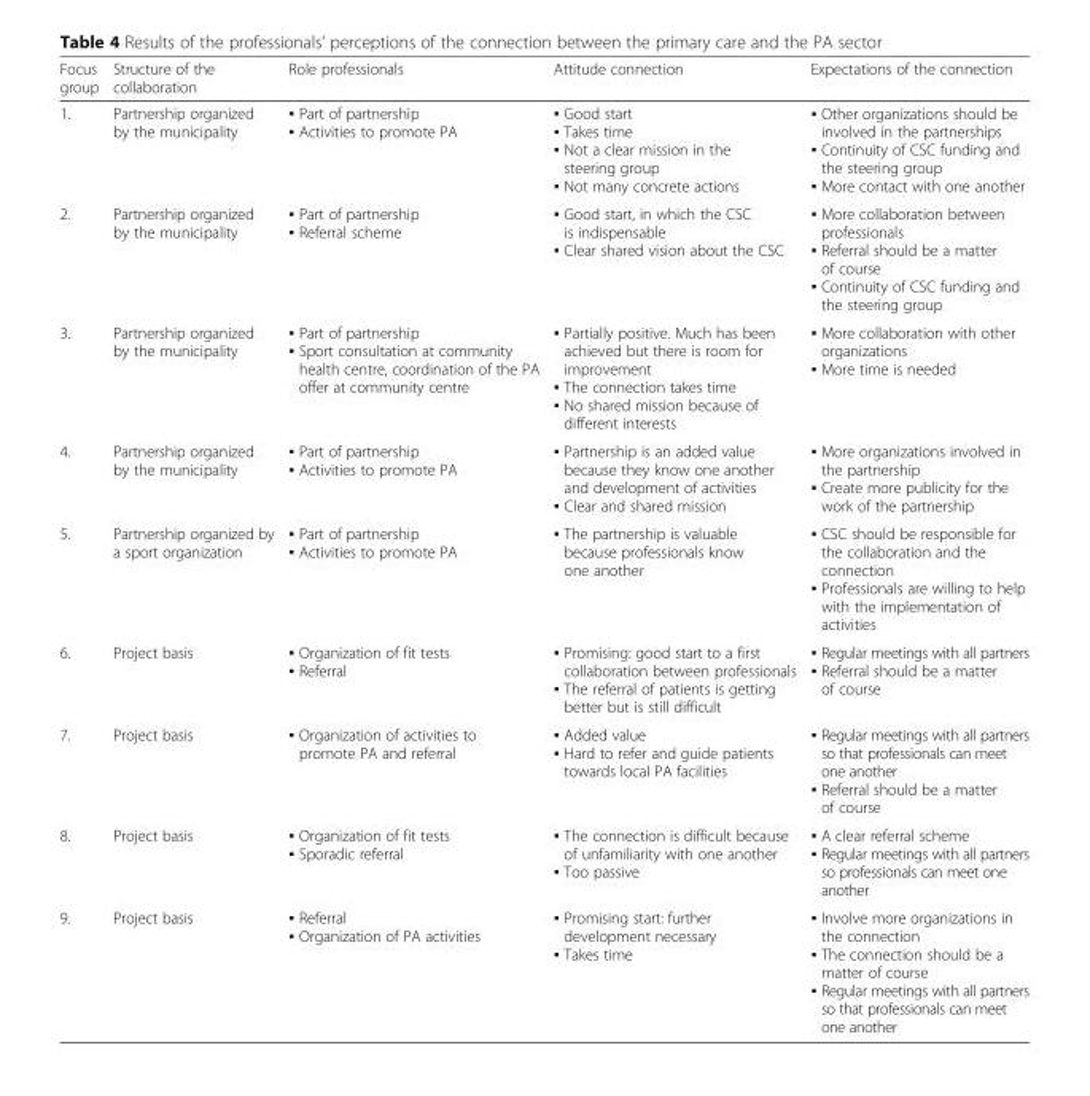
<table><thead><tr><td>Focus group</td><td>Structure of the collaboration</td><td>Role professionals</td><td>Attitude connection</td><td>Expectations of the connection</td></tr></thead><tbody><tr><td>1.</td><td>Partnership organized by the municipality</td><td>▪ Part of partnership ▪ Activities to promote PA</td><td>▪ Good start ▪ Takes time ▪ Not a clear mission in the steering group ▪ Not many concrete actions</td><td>▪ Other organizations should be involved in the partnerships ▪ Continuity of CSC funding and the steering group ▪ More contact with one another</td></tr><tr><td>2.</td><td>Partnership organized by the municipality</td><td>▪ Part of partnership ▪ Referral scheme</td><td>▪ Good start, in which the CSC is indispensable ▪ Clear shared vision about the CSC</td><td>▪ More collaboration between professionals ▪ Referral should be a matter of course ▪ Continuity of CSC funding and the steering group</td></tr><tr><td>3.</td><td>Partnership organized by the municipality</td><td>▪ Part of partnership ▪ Sport consultation at community health centre, coordination of the PA offer at community centre</td><td>▪ Partially positive. Much has been achieved but there is room for improvement ▪ The connection takes time ▪ No shared mission because of different interests</td><td>▪ More collaboration with other organizations ▪ More time is needed</td></tr><tr><td>4.</td><td>Partnership organized by the municipality</td><td>▪ Part of partnership ▪ Activities to promote PA</td><td>▪ Partnership is an added value because they know one another and development of activities ▪ Clear and shared mission</td><td>▪ More organizations involved in the partnership ▪ Create more publicity for the work of the partnership</td></tr><tr><td>5.</td><td>Partnership organized by a sport organization</td><td>▪ Part of partnership ▪ Activities to promote PA</td><td>▪ The partnership is valuable because professionals know one another</td><td>▪ CSC should be responsible for the collaboration and the connection ▪ Professionals are willing to help with the implementation of activities</td></tr><tr><td>6.</td><td>Project basis</td><td>▪ Organization of fit tests ▪ Referral</td><td>▪ Promising: good start to a first collaboration between professionals ▪ The referral of patients is getting better but is still difficult</td><td>▪ Regular meetings with all partners ▪ Referral should be a matter of course</td></tr><tr><td>7.</td><td>Project basis</td><td>▪ Organization of activities to promote PA and referral</td><td>▪ Added value ▪ Hard to refer and guide patients towards local PA facilities</td><td>▪ Regular meetings with all partners so that professionals can meet one another ▪ Referral should be a matter of course</td></tr><tr><td>8.</td><td>Project basis</td><td>▪ Organization of fit tests ▪ Sporadic referral</td><td>▪ The connection is difficult because of unfamiliarity with one another ▪ Too passive</td><td>▪ A clear referral scheme ▪ Regular meetings with all partners so professionals can meet one another</td></tr><tr><td>9.</td><td>Project basis</td><td>▪ Referral ▪ Organization of PA activities</td><td>▪ Promising start: further development necessary ▪ Takes time</td><td>▪ Involve more organizations in the connection ▪ The connection should be a matter of course ▪ Regular meetings with all partners so that professionals can meet one another</td></tr></tbody></table>